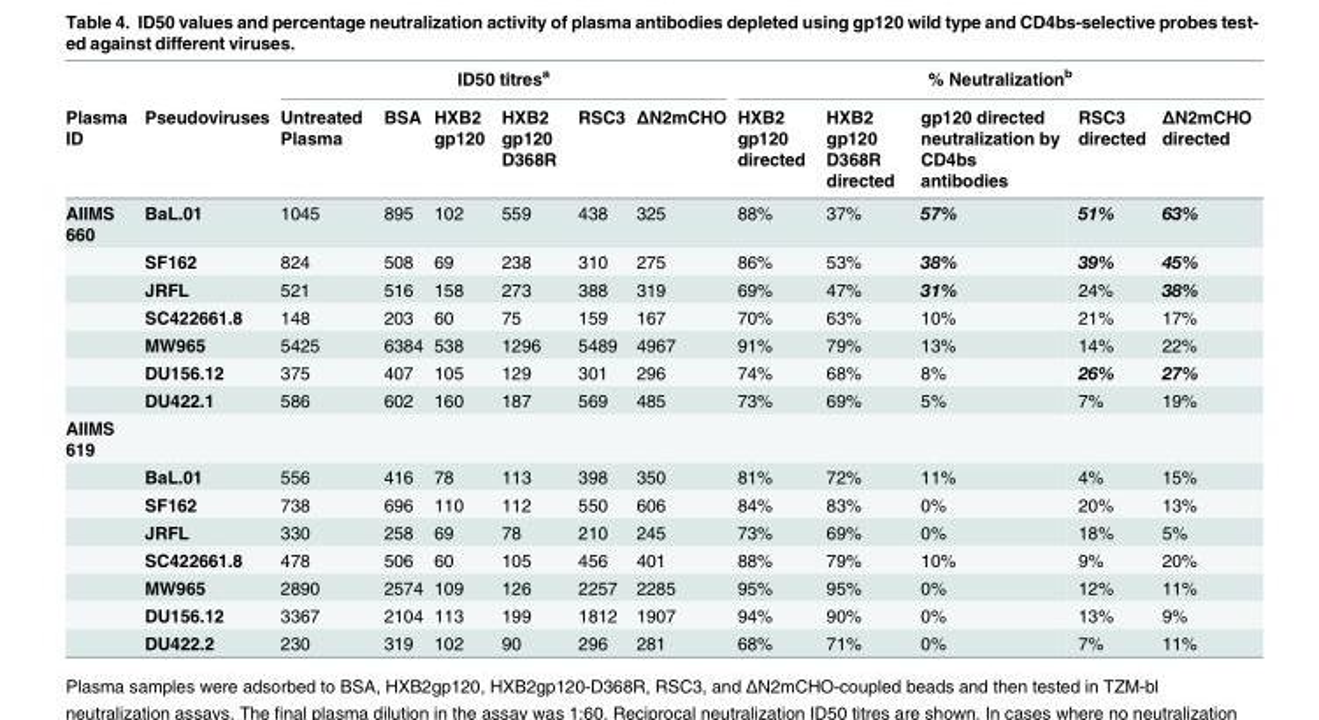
<table><thead><tr><td rowspan="2">Plasma ID</td><td rowspan="2">Pseudoviruses</td><td colspan="6">ID50 titres<sup>a</sup></td><td colspan="5">% Neutralization<sup>b</sup></td></tr><tr><td>Untreated Plasma</td><td>BSA</td><td>HXB2 gp120</td><td>HXB2 gp120 D368R</td><td>RSC3</td><td>ΔN2mCHO</td><td>HXB2 gp120 directed</td><td>HXB2 gp120 D368R directed</td><td>gp120 directed neutralization by CD4bs antibodies</td><td>RSC3 directed</td><td>ΔN2mCHO directed</td></tr></thead><tbody><tr><td rowspan="7">AIIMS 660</td><td>BaL.01</td><td>1045</td><td>895</td><td>102</td><td>559</td><td>438</td><td>325</td><td>88%</td><td>37%</td><td>57%</td><td>51%</td><td>63%</td></tr><tr><td>SF162</td><td>824</td><td>508</td><td>69</td><td>238</td><td>310</td><td>275</td><td>86%</td><td>53%</td><td>38%</td><td>39%</td><td>45%</td></tr><tr><td>JRFL</td><td>521</td><td>516</td><td>158</td><td>273</td><td>388</td><td>319</td><td>69%</td><td>47%</td><td>31%</td><td>24%</td><td>38%</td></tr><tr><td>SC422661.8</td><td>148</td><td>203</td><td>60</td><td>75</td><td>159</td><td>167</td><td>70%</td><td>63%</td><td>10%</td><td>21%</td><td>17%</td></tr><tr><td>MW965</td><td>5425</td><td>6384</td><td>538</td><td>1296</td><td>5489</td><td>4967</td><td>91%</td><td>79%</td><td>13%</td><td>14%</td><td>22%</td></tr><tr><td>DU156.12</td><td>375</td><td>407</td><td>105</td><td>129</td><td>301</td><td>296</td><td>74%</td><td>68%</td><td>8%</td><td>26%</td><td>27%</td></tr><tr><td>DU422.1</td><td>586</td><td>602</td><td>160</td><td>187</td><td>569</td><td>485</td><td>73%</td><td>69%</td><td>5%</td><td>7%</td><td>19%</td></tr><tr><td colspan="13">AIIMS 619</td></tr><tr><td></td><td>BaL.01</td><td>556</td><td>416</td><td>78</td><td>113</td><td>398</td><td>350</td><td>81%</td><td>72%</td><td>11%</td><td>4%</td><td>15%</td></tr><tr><td></td><td>SF162</td><td>738</td><td>696</td><td>110</td><td>112</td><td>550</td><td>606</td><td>84%</td><td>83%</td><td>0%</td><td>20%</td><td>13%</td></tr><tr><td></td><td>JRFL</td><td>330</td><td>258</td><td>69</td><td>78</td><td>210</td><td>245</td><td>73%</td><td>69%</td><td>0%</td><td>18%</td><td>5%</td></tr><tr><td></td><td>SC422661.8</td><td>478</td><td>506</td><td>60</td><td>105</td><td>456</td><td>401</td><td>88%</td><td>79%</td><td>10%</td><td>9%</td><td>20%</td></tr><tr><td></td><td>MW965</td><td>2890</td><td>2574</td><td>109</td><td>126</td><td>2257</td><td>2285</td><td>95%</td><td>95%</td><td>0%</td><td>12%</td><td>11%</td></tr><tr><td></td><td>DU156.12</td><td>3367</td><td>2104</td><td>113</td><td>199</td><td>1812</td><td>1907</td><td>94%</td><td>90%</td><td>0%</td><td>13%</td><td>9%</td></tr><tr><td></td><td>DU422.2</td><td>230</td><td>319</td><td>102</td><td>90</td><td>296</td><td>281</td><td>68%</td><td>71%</td><td>0%</td><td>7%</td><td>11%</td></tr></tbody></table>